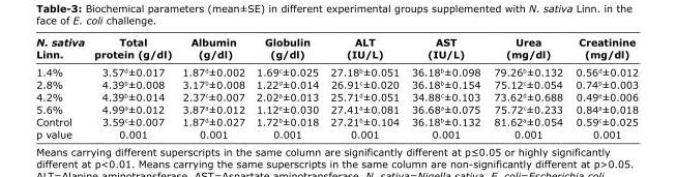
<table><thead><tr><td>N. sativa Linn.</td><td>Total protein (g/dl)</td><td>Albumin (g/dl)</td><td>Globulin (g/dl)</td><td>ALT (IU/L)</td><td>AST (IU/L)</td><td>Urea (mg/dl)</td><td>Creatinine (mg/dl)</td></tr></thead><tbody><tr><td>1.4%</td><td>3.57<sup>d</sup>±0.017</td><td>1.87<sup>d</sup>±0.002</td><td>1.69<sup>c</sup>±0.025</td><td>27.18<sup>b</sup>±0.051</td><td>36.18<sup>b</sup>±0.098</td><td>79.26<sup>b</sup>±0.132</td><td>0.56<sup>d</sup>±0.012</td></tr><tr><td>2.8%</td><td>4.39<sup>b</sup>±0.008</td><td>3.17<sup>b</sup>±0.008</td><td>1.22<sup>d</sup>±0.014</td><td>26.91<sup>c</sup>±0.020</td><td>36.18<sup>b</sup>±0.154</td><td>75.12<sup>c</sup>±0.054</td><td>0.74<sup>b</sup>±0.003</td></tr><tr><td>4.2%</td><td>4.39<sup>b</sup>±0.014</td><td>2.37<sup>c</sup>±0.007</td><td>2.02<sup>a</sup>±0.013</td><td>25.71<sup>d</sup>±0.051</td><td>34.88<sup>c</sup>±0.103</td><td>73.62<sup>d</sup>±0.688</td><td>0.49<sup>e</sup>±0.006</td></tr><tr><td>5.6%</td><td>4.99<sup>a</sup>±0.012</td><td>3.87<sup>a</sup>±0.012</td><td>1.12<sup>e</sup>±0.030</td><td>27.41<sup>a</sup>±0.081</td><td>36.68<sup>a</sup>±0.075</td><td>75.72<sup>c</sup>±0.233</td><td>0.84<sup>a</sup>±0.018</td></tr><tr><td>Control</td><td>3.59<sup>c</sup>±0.007</td><td>1.87<sup>d</sup>±0.027</td><td>1.72<sup>b</sup>±0.018</td><td>27.21<sup>b</sup>±0.104</td><td>36.18<sup>b</sup>±0.132</td><td>81.62<sup>a</sup>±0.054</td><td>0.59<sup>c</sup>±0.025</td></tr><tr><td>p value</td><td>0.001</td><td>0.001</td><td>0.001</td><td>0.001</td><td>0.001</td><td>0.001</td><td>0.001</td></tr></tbody></table>